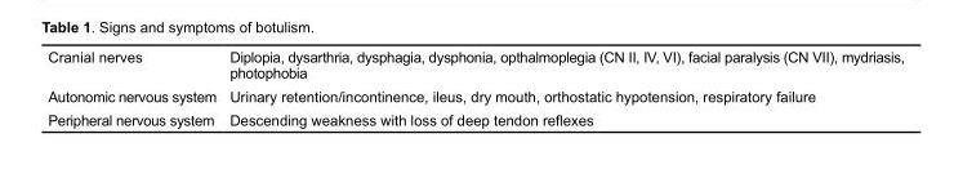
<table><tbody><tr><td>Cranial nerves</td><td>Diplopia, dysarthria, dysphagia, dysphonia, opthalmoplegia (CN II, IV, VI), facial paralysis (CN VII), mydriasis, photophobia</td></tr><tr><td>Autonomic nervous system</td><td>Urinary retention/incontinence, ileus, dry mouth, orthostatic hypotension, respiratory failure</td></tr><tr><td>Peripheral nervous system</td><td>Descending weakness with loss of deep tendon reflexes</td></tr></tbody></table>